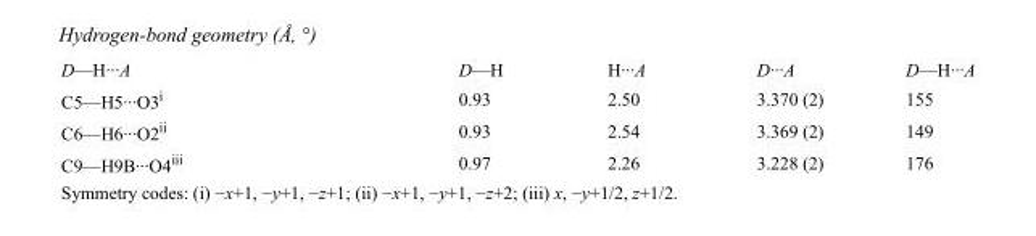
<table><tbody><tr><td>D—H···A</td><td>D—H</td><td>H···A</td><td>D···A</td><td>D—H···A</td></tr><tr><td>C5—H5···O3<sup>i</sup></td><td>0.93</td><td>2.50</td><td>3.370 (2)</td><td>155</td></tr><tr><td>C6—H6···O2<sup>ii</sup></td><td>0.93</td><td>2.54</td><td>3.369 (2)</td><td>149</td></tr><tr><td>C9—H9B···O4<sup>iii</sup></td><td>0.97</td><td>2.26</td><td>3.228 (2)</td><td>176</td></tr></tbody></table>